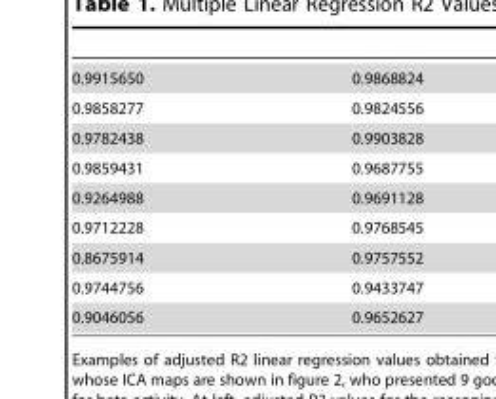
<table><tbody><tr><td>0.9915650</td><td>0.9868824</td></tr><tr><td>0.9858277</td><td>0.9824556</td></tr><tr><td>0.9782438</td><td>0.9903828</td></tr><tr><td>0.9859431</td><td>0.9687755</td></tr><tr><td>0.9264988</td><td>0.9691128</td></tr><tr><td>0.9712228</td><td>0.9768545</td></tr><tr><td>0.8675914</td><td>0.9757552</td></tr><tr><td>0.9744756</td><td>0.9433747</td></tr><tr><td>0.9046056</td><td>0.9652627</td></tr></tbody></table>